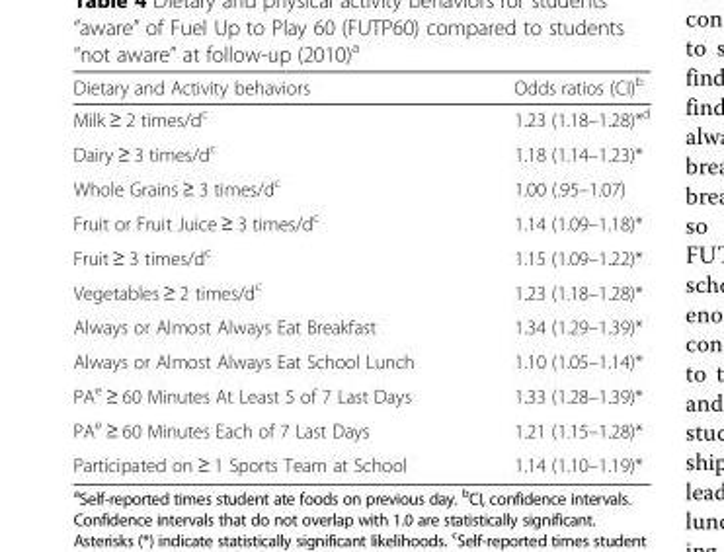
<table><thead><tr><td>Dietary and Activity behaviors</td><td>Odds ratios (CI)<sup>b</sup></td></tr></thead><tbody><tr><td>Milk ≥ 2 times/d<sup>c</sup></td><td>1.23 (1.18–1.28)*<sup>d</sup></td></tr><tr><td>Dairy ≥ 3 times/d<sup>c</sup></td><td>1.18 (1.14–1.23)*</td></tr><tr><td>Whole Grains ≥ 3 times/d<sup>c</sup></td><td>1.00 (.95–1.07)</td></tr><tr><td>Fruit or Fruit Juice ≥ 3 times/d<sup>c</sup></td><td>1.14 (1.09–1.18)*</td></tr><tr><td>Fruit ≥ 3 times/d<sup>c</sup></td><td>1.15 (1.09–1.22)*</td></tr><tr><td>Vegetables ≥ 2 times/d<sup>c</sup></td><td>1.23 (1.18–1.28)*</td></tr><tr><td>Always or Almost Always Eat Breakfast</td><td>1.34 (1.29–1.39)*</td></tr><tr><td>Always or Almost Always Eat School Lunch</td><td>1.10 (1.05–1.14)*</td></tr><tr><td>PA<sup>e</sup> ≥ 60 Minutes At Least 5 of 7 Last Days</td><td>1.33 (1.28–1.39)*</td></tr><tr><td>PA<sup>e</sup> ≥ 60 Minutes Each of 7 Last Days</td><td>1.21 (1.15–1.28)*</td></tr><tr><td>Participated on ≥ 1 Sports Team at School</td><td>1.14 (1.10–1.19)*</td></tr></tbody></table>